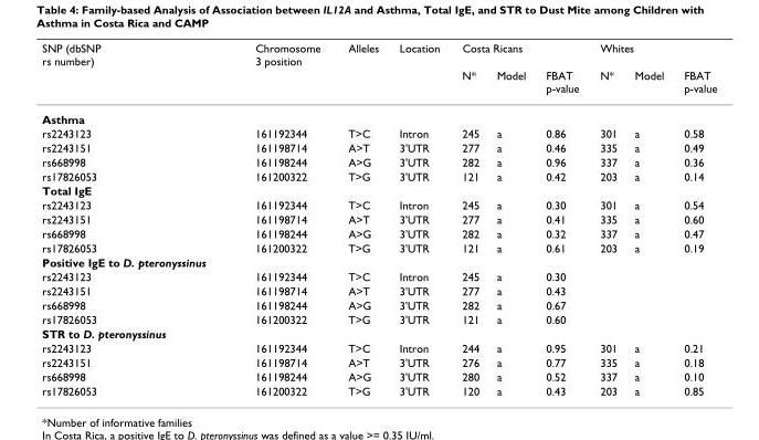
<table><thead><tr><td rowspan="2">SNP (dbSNP rs number)</td><td rowspan="2">Chromosome 3 position</td><td rowspan="2">Alleles</td><td rowspan="2">Location</td><td colspan="3">Costa Ricans</td><td colspan="3">Whites</td></tr><tr><td>N*</td><td>Model</td><td>FBAT p-value</td><td>N*</td><td>Model</td><td>FBAT p-value</td></tr></thead><tbody><tr><td colspan="10">Asthma</td></tr><tr><td>rs2243123</td><td>161192344</td><td>T&gt;C</td><td>Intron</td><td>245</td><td>a</td><td>0.86</td><td>301</td><td>a</td><td>0.58</td></tr><tr><td>rs2243151</td><td>161198714</td><td>A&gt;T</td><td>3&#x27;UTR</td><td>277</td><td>a</td><td>0.46</td><td>335</td><td>a</td><td>0.49</td></tr><tr><td>rs668998</td><td>161198244</td><td>A&gt;G</td><td>3&#x27;UTR</td><td>282</td><td>a</td><td>0.96</td><td>337</td><td>a</td><td>0.36</td></tr><tr><td>rs17826053</td><td>161200322</td><td>T&gt;G</td><td>3&#x27;UTR</td><td>121</td><td>a</td><td>0.42</td><td>203</td><td>a</td><td>0.14</td></tr><tr><td colspan="10">Total IgE</td></tr><tr><td>rs2243123</td><td>161192344</td><td>T&gt;C</td><td>Intron</td><td>245</td><td>a</td><td>0.30</td><td>301</td><td>a</td><td>0.54</td></tr><tr><td>rs2243151</td><td>161198714</td><td>A&gt;T</td><td>3&#x27;UTR</td><td>277</td><td>a</td><td>0.41</td><td>335</td><td>a</td><td>0.60</td></tr><tr><td>rs668998</td><td>161198244</td><td>A&gt;G</td><td>3&#x27;UTR</td><td>282</td><td>a</td><td>0.32</td><td>337</td><td>a</td><td>0.47</td></tr><tr><td>rs17826053</td><td>161200322</td><td>T&gt;G</td><td>3&#x27;UTR</td><td>121</td><td>a</td><td>0.61</td><td>203</td><td>a</td><td>0.19</td></tr><tr><td colspan="10">Positive IgE to D. pteronyssinus</td></tr><tr><td>rs2243123</td><td>161192344</td><td>T&gt;C</td><td>Intron</td><td>245</td><td>a</td><td>0.30</td><td></td><td></td><td></td></tr><tr><td>rs2243151</td><td>161198714</td><td>A&gt;T</td><td>3&#x27;UTR</td><td>277</td><td>a</td><td>0.43</td><td></td><td></td><td></td></tr><tr><td>rs668998</td><td>161198244</td><td>A&gt;G</td><td>3&#x27;UTR</td><td>282</td><td>a</td><td>0.67</td><td></td><td></td><td></td></tr><tr><td>rs17826053</td><td>161200322</td><td>T&gt;G</td><td>3&#x27;UTR</td><td>121</td><td>a</td><td>0.60</td><td></td><td></td><td></td></tr><tr><td colspan="10">STR to D. pteronyssinus</td></tr><tr><td>rs2243123</td><td>161192344</td><td>T&gt;C</td><td>Intron</td><td>244</td><td>a</td><td>0.95</td><td>301</td><td>a</td><td>0.21</td></tr><tr><td>rs2243151</td><td>161198714</td><td>A&gt;T</td><td>3&#x27;UTR</td><td>276</td><td>a</td><td>0.77</td><td>335</td><td>a</td><td>0.18</td></tr><tr><td>rs668998</td><td>161198244</td><td>A&gt;G</td><td>3&#x27;UTR</td><td>280</td><td>a</td><td>0.52</td><td>337</td><td>a</td><td>0.10</td></tr><tr><td>rs17826053</td><td>161200322</td><td>T&gt;G</td><td>3&#x27;UTR</td><td>120</td><td>a</td><td>0.43</td><td>203</td><td>a</td><td>0.85</td></tr></tbody></table>